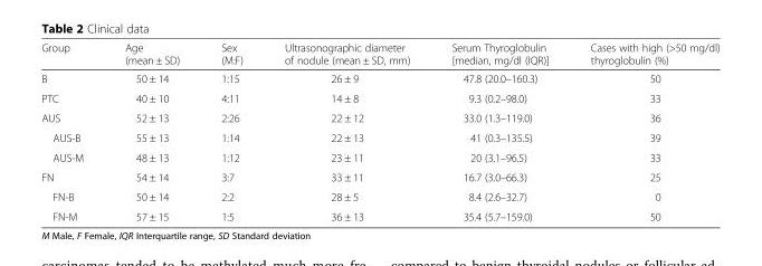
<table><thead><tr><td>Group</td><td>Age (mean ± SD)</td><td>Sex (M:F)</td><td>Ultrasonographic diameter of nodule (mean ± SD, mm)</td><td>Serum Thyroglobulin [median, mg/dl (IQR)]</td><td>Cases with high (&gt;50 mg/dl) thyroglobulin (%)</td></tr></thead><tbody><tr><td>B</td><td>50 ± 14</td><td>1:15</td><td>26 ± 9</td><td>47.8 (20.0–160.3)</td><td>50</td></tr><tr><td>PTC</td><td>40 ± 10</td><td>4:11</td><td>14 ± 8</td><td>9.3 (0.2–98.0)</td><td>33</td></tr><tr><td>AUS</td><td>52 ± 13</td><td>2:26</td><td>22 ± 12</td><td>33.0 (1.3–119.0)</td><td>36</td></tr><tr><td>AUS-B</td><td>55 ± 13</td><td>1:14</td><td>22 ± 13</td><td>41 (0.3–135.5)</td><td>39</td></tr><tr><td>AUS-M</td><td>48 ± 13</td><td>1:12</td><td>23 ± 11</td><td>20 (3.1–96.5)</td><td>33</td></tr><tr><td>FN</td><td>54 ± 14</td><td>3:7</td><td>33 ± 11</td><td>16.7 (3.0–66.3)</td><td>25</td></tr><tr><td>FN-B</td><td>50 ± 14</td><td>2:2</td><td>28 ± 5</td><td>8.4 (2.6–32.7)</td><td>0</td></tr><tr><td>FN-M</td><td>57 ± 15</td><td>1:5</td><td>36 ± 13</td><td>35.4 (5.7–159.0)</td><td>50</td></tr></tbody></table>